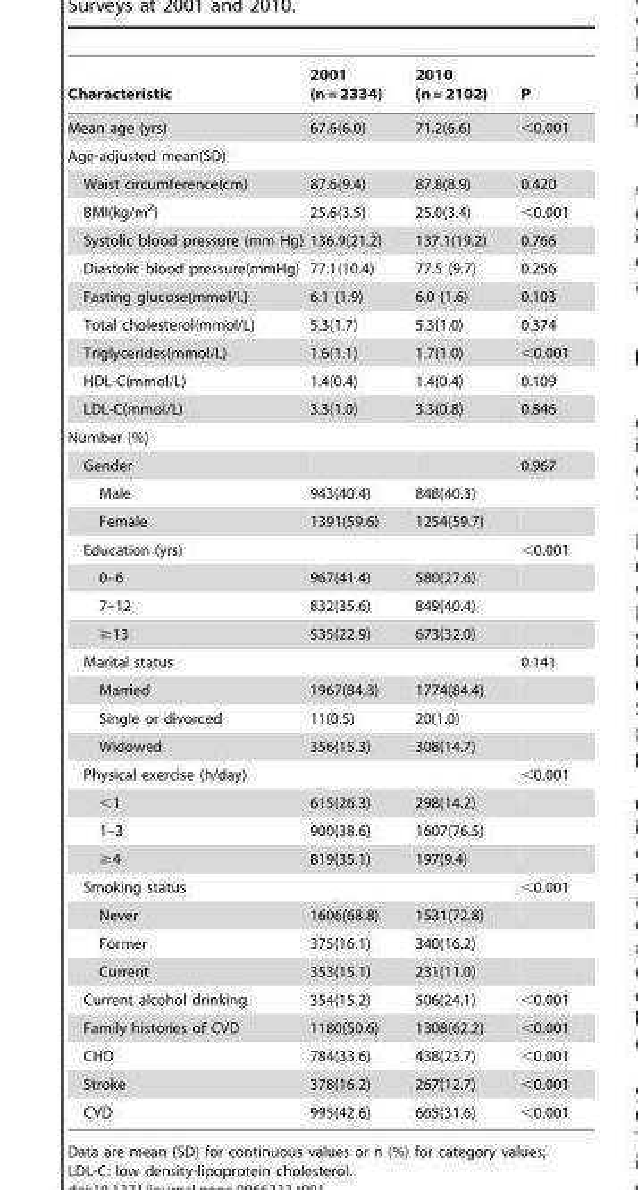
<table><thead><tr><td>Characteristic</td><td>2001 (n = 2334)</td><td>2010 (n = 2102)</td><td>P</td></tr></thead><tbody><tr><td>Mean age (yrs)</td><td>67.6(6.0)</td><td>71.2(6.6)</td><td>&lt;0.001</td></tr><tr><td colspan="4">Age-adjusted mean(SD)</td></tr><tr><td>Waist circumference(cm)</td><td>87.6(9.4)</td><td>87.8(8.9)</td><td>0.420</td></tr><tr><td>BMI(kg/m<sup>2</sup>)</td><td>25.6(3.5)</td><td>25.0(3.4)</td><td>&lt;0.001</td></tr><tr><td>Systolic blood pressure (mm Hg)</td><td>136.9(21.2)</td><td>137.1(19.2)</td><td>0.766</td></tr><tr><td>Diastolic blood pressure(mmHg)</td><td>77.1(10.4)</td><td>77.5 (9.7)</td><td>0.256</td></tr><tr><td>Fasting glucose(mmol/L)</td><td>6.1 (1.9)</td><td>6.0 (1.6)</td><td>0.103</td></tr><tr><td>Total cholesterol(mmol/L)</td><td>5.3(1.7)</td><td>5.3(1.0)</td><td>0.374</td></tr><tr><td>Triglycerides(mmol/L)</td><td>1.6(1.1)</td><td>1.7(1.0)</td><td>&lt;0.001</td></tr><tr><td>HDL-C(mmol/L)</td><td>1.4(0.4)</td><td>1.4(0.4)</td><td>0.109</td></tr><tr><td>LDL-C(mmol/L)</td><td>3.3(1.0)</td><td>3.3(0.8)</td><td>0.846</td></tr><tr><td colspan="4">Number (%)</td></tr><tr><td>Gender</td><td></td><td></td><td>0.967</td></tr><tr><td>Male</td><td>943(40.4)</td><td>848(40.3)</td><td></td></tr><tr><td>Female</td><td>1391(59.6)</td><td>1254(59.7)</td><td></td></tr><tr><td>Education (yrs)</td><td></td><td></td><td>&lt;0.001</td></tr><tr><td>0–6</td><td>967(41.4)</td><td>580(27.6)</td><td></td></tr><tr><td>7–12</td><td>832(35.6)</td><td>849(40.4)</td><td></td></tr><tr><td>≥13</td><td>535(22.9)</td><td>673(32.0)</td><td></td></tr><tr><td>Marital status</td><td></td><td></td><td>0.141</td></tr><tr><td>Married</td><td>1967(84.3)</td><td>1774(84.4)</td><td></td></tr><tr><td>Single or divorced</td><td>11(0.5)</td><td>20(1.0)</td><td></td></tr><tr><td>Widowed</td><td>356(15.3)</td><td>308(14.7)</td><td></td></tr><tr><td>Physical exercise (h/day)</td><td></td><td></td><td>&lt;0.001</td></tr><tr><td>&lt;1</td><td>615(26.3)</td><td>298(14.2)</td><td></td></tr><tr><td>1–3</td><td>900(38.6)</td><td>1607(76.5)</td><td></td></tr><tr><td>≥4</td><td>819(35.1)</td><td>197(9.4)</td><td></td></tr><tr><td>Smoking status</td><td></td><td></td><td>&lt;0.001</td></tr><tr><td>Never</td><td>1606(68.8)</td><td>1531(72.8)</td><td></td></tr><tr><td>Former</td><td>375(16.1)</td><td>340(16.2)</td><td></td></tr><tr><td>Current</td><td>353(15.1)</td><td>231(11.0)</td><td></td></tr><tr><td>Current alcohol drinking</td><td>354(15.2)</td><td>506(24.1)</td><td>&lt;0.001</td></tr><tr><td>Family histories of CVD</td><td>1180(50.6)</td><td>1308(62.2)</td><td>&lt;0.001</td></tr><tr><td>CHD</td><td>784(33.6)</td><td>438(23.7)</td><td>&lt;0.001</td></tr><tr><td>Stroke</td><td>378(16.2)</td><td>267(12.7)</td><td>&lt;0.001</td></tr><tr><td>CVD</td><td>995(42.6)</td><td>665(31.6)</td><td>&lt;0.001</td></tr></tbody></table>